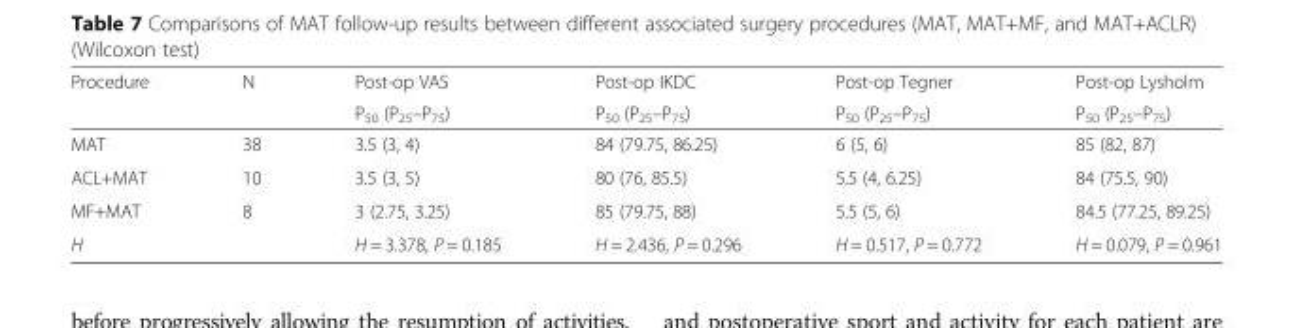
<table><thead><tr><td rowspan="2">Procedure</td><td rowspan="2">N</td><td rowspan="2">Post-op VAS P<sub>50</sub> (P<sub>25</sub>–P<sub>75</sub>)</td><td rowspan="2">Post-op IKDC P<sub>50</sub> (P<sub>25</sub>–P<sub>75</sub>)</td><td rowspan="2">Post-op Tegner P<sub>50</sub> (P<sub>25</sub>–P<sub>75</sub>)</td><td rowspan="2">Post-op Lysholm P<sub>50</sub> (P<sub>25</sub>–P<sub>75</sub>)</td></tr><tr></tr></thead><tbody><tr><td>MAT</td><td>38</td><td>3.5 (3, 4)</td><td>84 (79.75, 86.25)</td><td>6 (5, 6)</td><td>85 (82, 87)</td></tr><tr><td>ACL+MAT</td><td>10</td><td>3.5 (3, 5)</td><td>80 (76, 85.5)</td><td>5.5 (4, 6.25)</td><td>84 (75.5, 90)</td></tr><tr><td>MF+MAT</td><td>8</td><td>3 (2.75, 3.25)</td><td>85 (79.75, 88)</td><td>5.5 (5, 6)</td><td>84.5 (77.25, 89.25)</td></tr><tr><td>H</td><td></td><td>H = 3.378, P = 0.185</td><td>H = 2.436, P = 0.296</td><td>H = 0.517, P = 0.772</td><td>H = 0.079, P = 0.961</td></tr></tbody></table>